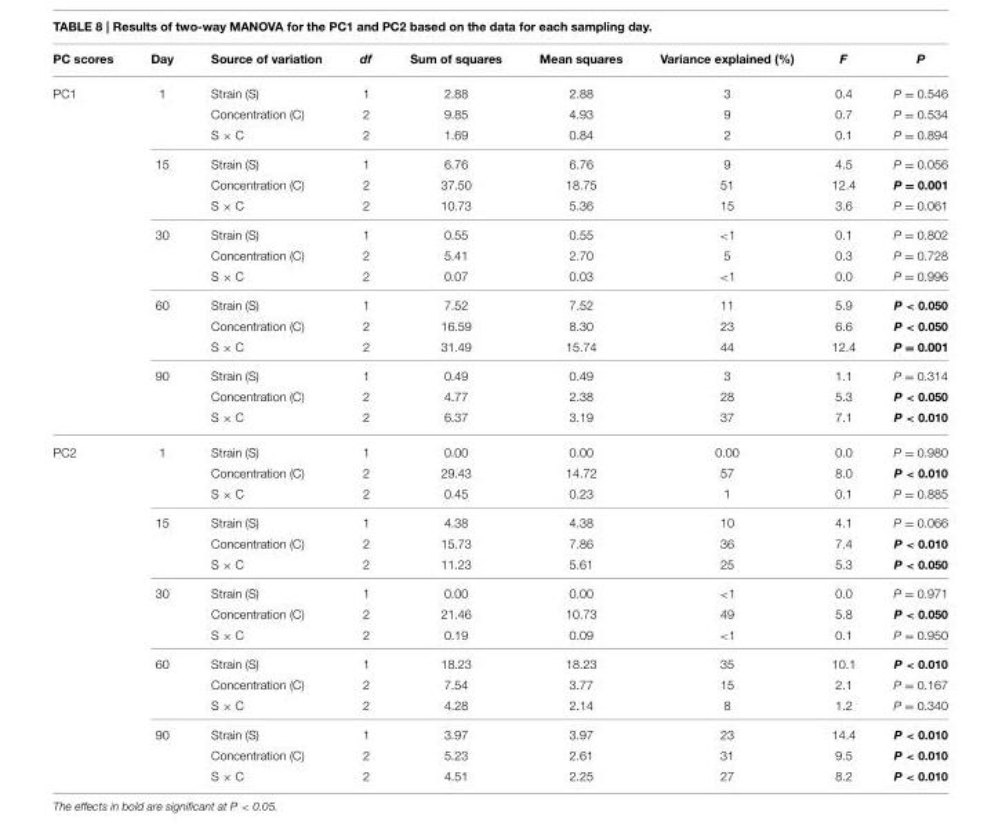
<table><thead><tr><td>PC scores</td><td>Day</td><td>Source of variation</td><td>df</td><td>Sum of squares</td><td>Mean squares</td><td>Variance explained (%)</td><td>F</td><td>P</td></tr></thead><tbody><tr><td rowspan="15">PC1</td><td>1</td><td>Strain (S)</td><td>1</td><td>2.88</td><td>2.88</td><td>3</td><td>0.4</td><td>P = 0.546</td></tr><tr><td></td><td>Concentration (C)</td><td>2</td><td>9.85</td><td>4.93</td><td>9</td><td>0.7</td><td>P = 0.534</td></tr><tr><td></td><td>S × C</td><td>2</td><td>1.69</td><td>0.84</td><td>2</td><td>0.1</td><td>P = 0.894</td></tr><tr><td>15</td><td>Strain (S)</td><td>1</td><td>6.76</td><td>6.76</td><td>9</td><td>4.5</td><td>P = 0.056</td></tr><tr><td></td><td>Concentration (C)</td><td>2</td><td>37.50</td><td>18.75</td><td>51</td><td>12.4</td><td>P = 0.001</td></tr><tr><td></td><td>S × C</td><td>2</td><td>10.73</td><td>5.36</td><td>15</td><td>3.6</td><td>P = 0.061</td></tr><tr><td>30</td><td>Strain (S)</td><td>1</td><td>0.55</td><td>0.55</td><td>&lt;1</td><td>0.1</td><td>P = 0.802</td></tr><tr><td></td><td>Concentration (C)</td><td>2</td><td>5.41</td><td>2.70</td><td>5</td><td>0.3</td><td>P = 0.728</td></tr><tr><td></td><td>S × C</td><td>2</td><td>0.07</td><td>0.03</td><td>&lt;1</td><td>0.0</td><td>P = 0.996</td></tr><tr><td>60</td><td>Strain (S)</td><td>1</td><td>7.52</td><td>7.52</td><td>11</td><td>5.9</td><td>P &lt; 0.050</td></tr><tr><td></td><td>Concentration (C)</td><td>2</td><td>16.59</td><td>8.30</td><td>23</td><td>6.6</td><td>P &lt; 0.050</td></tr><tr><td></td><td>S × C</td><td>2</td><td>31.49</td><td>15.74</td><td>44</td><td>12.4</td><td>P = 0.001</td></tr><tr><td>90</td><td>Strain (S)</td><td>1</td><td>0.49</td><td>0.49</td><td>3</td><td>1.1</td><td>P = 0.314</td></tr><tr><td></td><td>Concentration (C)</td><td>2</td><td>4.77</td><td>2.38</td><td>28</td><td>5.3</td><td>P &lt; 0.050</td></tr><tr><td></td><td>S × C</td><td>2</td><td>6.37</td><td>3.19</td><td>37</td><td>7.1</td><td>P &lt; 0.010</td></tr><tr><td rowspan="15">PC2</td><td>1</td><td>Strain (S)</td><td>1</td><td>0.00</td><td>0.00</td><td>0.00</td><td>0.0</td><td>P = 0.980</td></tr><tr><td></td><td>Concentration (C)</td><td>2</td><td>29.43</td><td>14.72</td><td>57</td><td>8.0</td><td>P &lt; 0.010</td></tr><tr><td></td><td>S × C</td><td>2</td><td>0.45</td><td>0.23</td><td>1</td><td>0.1</td><td>P = 0.885</td></tr><tr><td>15</td><td>Strain (S)</td><td>1</td><td>4.38</td><td>4.38</td><td>10</td><td>4.1</td><td>P = 0.066</td></tr><tr><td></td><td>Concentration (C)</td><td>2</td><td>15.73</td><td>7.86</td><td>36</td><td>7.4</td><td>P &lt; 0.010</td></tr><tr><td></td><td>S × C</td><td>2</td><td>11.23</td><td>5.61</td><td>25</td><td>5.3</td><td>P &lt; 0.050</td></tr><tr><td>30</td><td>Strain (S)</td><td>1</td><td>0.00</td><td>0.00</td><td>&lt;1</td><td>0.0</td><td>P = 0.971</td></tr><tr><td></td><td>Concentration (C)</td><td>2</td><td>21.46</td><td>10.73</td><td>49</td><td>5.8</td><td>P &lt; 0.050</td></tr><tr><td></td><td>S × C</td><td>2</td><td>0.19</td><td>0.09</td><td>&lt;1</td><td>0.1</td><td>P = 0.950</td></tr><tr><td>60</td><td>Strain (S)</td><td>1</td><td>18.23</td><td>18.23</td><td>35</td><td>10.1</td><td>P &lt; 0.010</td></tr><tr><td></td><td>Concentration (C)</td><td>2</td><td>7.54</td><td>3.77</td><td>15</td><td>2.1</td><td>P = 0.167</td></tr><tr><td></td><td>S × C</td><td>2</td><td>4.28</td><td>2.14</td><td>8</td><td>1.2</td><td>P = 0.340</td></tr><tr><td>90</td><td>Strain (S)</td><td>1</td><td>3.97</td><td>3.97</td><td>23</td><td>14.4</td><td>P &lt; 0.010</td></tr><tr><td></td><td>Concentration (C)</td><td>2</td><td>5.23</td><td>2.61</td><td>31</td><td>9.5</td><td>P &lt; 0.010</td></tr><tr><td></td><td>S × C</td><td>2</td><td>4.51</td><td>2.25</td><td>27</td><td>8.2</td><td>P &lt; 0.010</td></tr></tbody></table>